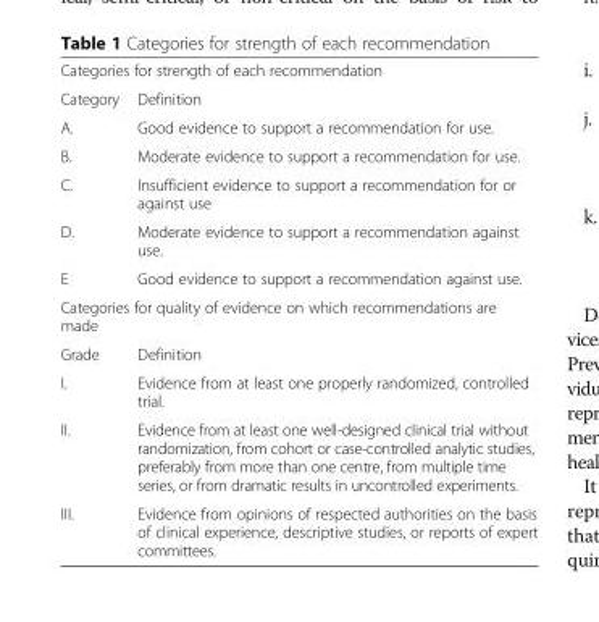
<table><tbody><tr><td colspan="2">Categories for strength of each recommendation</td></tr><tr><td>Category</td><td>Definition</td></tr><tr><td>A.</td><td>Good evidence to support a recommendation for use.</td></tr><tr><td>B.</td><td>Moderate evidence to support a recommendation for use.</td></tr><tr><td>C.</td><td>Insufficient evidence to support a recommendation for or against use</td></tr><tr><td>D.</td><td>Moderate evidence to support a recommendation against use.</td></tr><tr><td>E</td><td>Good evidence to support a recommendation against use.</td></tr><tr><td colspan="2">Categories for quality of evidence on which recommendations are made</td></tr><tr><td>Grade</td><td>Definition</td></tr><tr><td>I.</td><td>Evidence from at least one properly randomized, controlled trial.</td></tr><tr><td>II.</td><td>Evidence from at least one well-designed clinical trial without randomization, from cohort or case-controlled analytic studies, preferably from more than one centre, from multiple time series, or from dramatic results in uncontrolled experiments.</td></tr><tr><td>III.</td><td>Evidence from opinions of respected authorities on the basis of clinical experience, descriptive studies, or reports of expert committees.</td></tr></tbody></table>